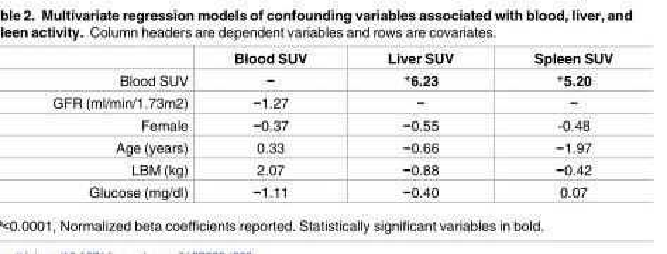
<table><thead><tr><td></td><td>Blood SUV</td><td>Liver SUV</td><td>Spleen SUV</td></tr></thead><tbody><tr><td>Blood SUV</td><td>−</td><td>*6.23</td><td>*5.20</td></tr><tr><td>GFR (ml/min/1.73m2)</td><td>−1.27</td><td>−</td><td>−</td></tr><tr><td>Female</td><td>−0.37</td><td>−0.55</td><td>-0.48</td></tr><tr><td>Age (years)</td><td>0.33</td><td>−0.66</td><td>−1.97</td></tr><tr><td>LBM (kg)</td><td>2.07</td><td>−0.88</td><td>−0.42</td></tr><tr><td>Glucose (mg/dl)</td><td>−1.11</td><td>−0.40</td><td>0.07</td></tr></tbody></table>